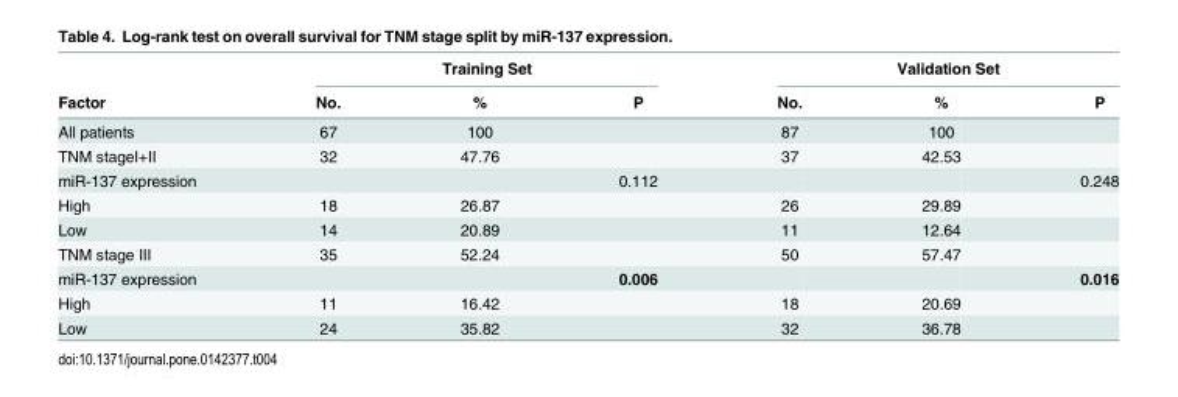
<table><thead><tr><td rowspan="2">Factor</td><td colspan="3">Training Set</td><td colspan="3">Validation Set</td></tr><tr><td>No.</td><td>%</td><td>P</td><td>No.</td><td>%</td><td>P</td></tr></thead><tbody><tr><td>All patients</td><td>67</td><td>100</td><td></td><td>87</td><td>100</td><td></td></tr><tr><td>TNM stageI+II</td><td>32</td><td>47.76</td><td></td><td>37</td><td>42.53</td><td></td></tr><tr><td>miR-137 expression</td><td></td><td></td><td>0.112</td><td></td><td></td><td>0.248</td></tr><tr><td>High</td><td>18</td><td>26.87</td><td></td><td>26</td><td>29.89</td><td></td></tr><tr><td>Low</td><td>14</td><td>20.89</td><td></td><td>11</td><td>12.64</td><td></td></tr><tr><td>TNM stage III</td><td>35</td><td>52.24</td><td></td><td>50</td><td>57.47</td><td></td></tr><tr><td>miR-137 expression</td><td></td><td></td><td>0.006</td><td></td><td></td><td>0.016</td></tr><tr><td>High</td><td>11</td><td>16.42</td><td></td><td>18</td><td>20.69</td><td></td></tr><tr><td>Low</td><td>24</td><td>35.82</td><td></td><td>32</td><td>36.78</td><td></td></tr></tbody></table>